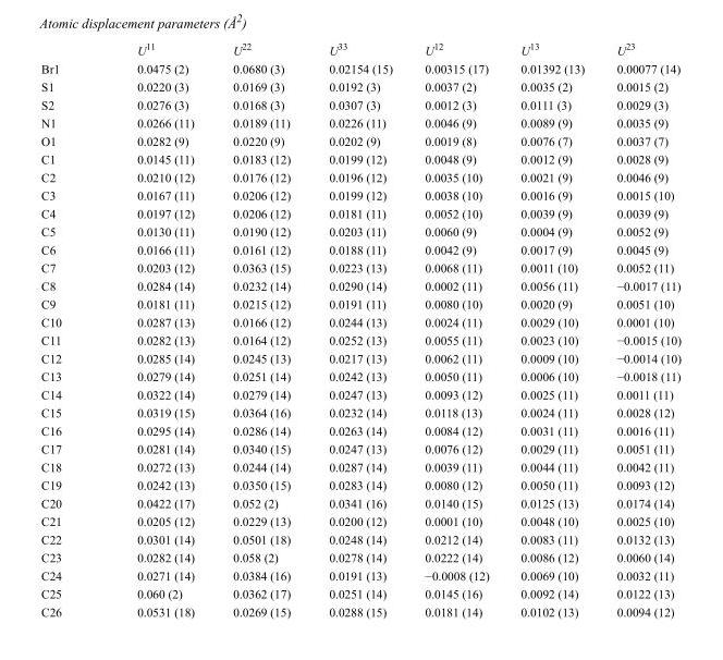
<table><thead><tr><td></td><td>U<sup>11</sup></td><td>U<sup>22</sup></td><td>U<sup>33</sup></td><td>U<sup>12</sup></td><td>U<sup>13</sup></td><td>U<sup>23</sup></td></tr></thead><tbody><tr><td>Br1</td><td>0.0475 (2)</td><td>0.0680 (3)</td><td>0.02154 (15)</td><td>0.00315 (17)</td><td>0.01392 (13)</td><td>0.00077 (14)</td></tr><tr><td>S1</td><td>0.0220 (3)</td><td>0.0169 (3)</td><td>0.0192 (3)</td><td>0.0037 (2)</td><td>0.0035 (2)</td><td>0.0015 (2)</td></tr><tr><td>S2</td><td>0.0276 (3)</td><td>0.0168 (3)</td><td>0.0307 (3)</td><td>0.0012 (3)</td><td>0.0111 (3)</td><td>0.0029 (3)</td></tr><tr><td>N1</td><td>0.0266 (11)</td><td>0.0189 (11)</td><td>0.0226 (11)</td><td>0.0046 (9)</td><td>0.0089 (9)</td><td>0.0035 (9)</td></tr><tr><td>O1</td><td>0.0282 (9)</td><td>0.0220 (9)</td><td>0.0202 (9)</td><td>0.0019 (8)</td><td>0.0076 (7)</td><td>0.0037 (7)</td></tr><tr><td>C1</td><td>0.0145 (11)</td><td>0.0183 (12)</td><td>0.0199 (12)</td><td>0.0048 (9)</td><td>0.0012 (9)</td><td>0.0028 (9)</td></tr><tr><td>C2</td><td>0.0210 (12)</td><td>0.0176 (12)</td><td>0.0196 (12)</td><td>0.0035 (10)</td><td>0.0021 (9)</td><td>0.0046 (9)</td></tr><tr><td>C3</td><td>0.0167 (11)</td><td>0.0206 (12)</td><td>0.0199 (12)</td><td>0.0038 (10)</td><td>0.0016 (9)</td><td>0.0015 (10)</td></tr><tr><td>C4</td><td>0.0197 (12)</td><td>0.0206 (12)</td><td>0.0181 (11)</td><td>0.0052 (10)</td><td>0.0039 (9)</td><td>0.0039 (9)</td></tr><tr><td>C5</td><td>0.0130 (11)</td><td>0.0190 (12)</td><td>0.0203 (11)</td><td>0.0060 (9)</td><td>0.0004 (9)</td><td>0.0052 (9)</td></tr><tr><td>C6</td><td>0.0166 (11)</td><td>0.0161 (12)</td><td>0.0188 (11)</td><td>0.0042 (9)</td><td>0.0017 (9)</td><td>0.0045 (9)</td></tr><tr><td>C7</td><td>0.0203 (12)</td><td>0.0363 (15)</td><td>0.0223 (13)</td><td>0.0068 (11)</td><td>0.0011 (10)</td><td>0.0052 (11)</td></tr><tr><td>C8</td><td>0.0284 (14)</td><td>0.0232 (14)</td><td>0.0290 (14)</td><td>0.0002 (11)</td><td>0.0056 (11)</td><td>−0.0017 (11)</td></tr><tr><td>C9</td><td>0.0181 (11)</td><td>0.0215 (12)</td><td>0.0191 (11)</td><td>0.0080 (10)</td><td>0.0020 (9)</td><td>0.0051 (10)</td></tr><tr><td>C10</td><td>0.0287 (13)</td><td>0.0166 (12)</td><td>0.0244 (13)</td><td>0.0024 (11)</td><td>0.0029 (10)</td><td>0.0001 (10)</td></tr><tr><td>C11</td><td>0.0282 (13)</td><td>0.0164 (12)</td><td>0.0252 (13)</td><td>0.0055 (11)</td><td>0.0023 (10)</td><td>−0.0015 (10)</td></tr><tr><td>C12</td><td>0.0285 (14)</td><td>0.0245 (13)</td><td>0.0217 (13)</td><td>0.0062 (11)</td><td>0.0009 (10)</td><td>−0.0014 (10)</td></tr><tr><td>C13</td><td>0.0279 (14)</td><td>0.0251 (14)</td><td>0.0242 (13)</td><td>0.0050 (11)</td><td>0.0006 (10)</td><td>−0.0018 (11)</td></tr><tr><td>C14</td><td>0.0322 (14)</td><td>0.0279 (14)</td><td>0.0247 (13)</td><td>0.0093 (12)</td><td>0.0025 (11)</td><td>0.0011 (11)</td></tr><tr><td>C15</td><td>0.0319 (15)</td><td>0.0364 (16)</td><td>0.0232 (14)</td><td>0.0118 (13)</td><td>0.0024 (11)</td><td>0.0028 (12)</td></tr><tr><td>C16</td><td>0.0295 (14)</td><td>0.0286 (14)</td><td>0.0263 (14)</td><td>0.0084 (12)</td><td>0.0031 (11)</td><td>0.0016 (11)</td></tr><tr><td>C17</td><td>0.0281 (14)</td><td>0.0340 (15)</td><td>0.0247 (13)</td><td>0.0076 (12)</td><td>0.0029 (11)</td><td>0.0051 (11)</td></tr><tr><td>C18</td><td>0.0272 (13)</td><td>0.0244 (14)</td><td>0.0287 (14)</td><td>0.0039 (11)</td><td>0.0044 (11)</td><td>0.0042 (11)</td></tr><tr><td>C19</td><td>0.0242 (13)</td><td>0.0350 (15)</td><td>0.0283 (14)</td><td>0.0080 (12)</td><td>0.0050 (11)</td><td>0.0093 (12)</td></tr><tr><td>C20</td><td>0.0422 (17)</td><td>0.052 (2)</td><td>0.0341 (16)</td><td>0.0140 (15)</td><td>0.0125 (13)</td><td>0.0174 (14)</td></tr><tr><td>C21</td><td>0.0205 (12)</td><td>0.0229 (13)</td><td>0.0200 (12)</td><td>0.0001 (10)</td><td>0.0048 (10)</td><td>0.0025 (10)</td></tr><tr><td>C22</td><td>0.0301 (14)</td><td>0.0501 (18)</td><td>0.0248 (14)</td><td>0.0212 (14)</td><td>0.0083 (11)</td><td>0.0132 (13)</td></tr><tr><td>C23</td><td>0.0282 (14)</td><td>0.058 (2)</td><td>0.0278 (14)</td><td>0.0222 (14)</td><td>0.0086 (12)</td><td>0.0060 (14)</td></tr><tr><td>C24</td><td>0.0271 (14)</td><td>0.0384 (16)</td><td>0.0191 (13)</td><td>−0.0008 (12)</td><td>0.0069 (10)</td><td>0.0032 (11)</td></tr><tr><td>C25</td><td>0.060 (2)</td><td>0.0362 (17)</td><td>0.0251 (14)</td><td>0.0145 (16)</td><td>0.0092 (14)</td><td>0.0122 (13)</td></tr><tr><td>C26</td><td>0.0531 (18)</td><td>0.0269 (15)</td><td>0.0288 (15)</td><td>0.0181 (14)</td><td>0.0102 (13)</td><td>0.0094 (12)</td></tr></tbody></table>